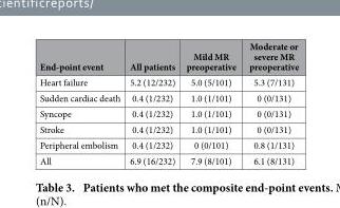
<table><thead><tr><td>End-point event</td><td>All patients</td><td>Mild MR preoperative</td><td>Moderate or severe MR preoperative</td></tr></thead><tbody><tr><td>Heart failure</td><td>5.2 (12/232)</td><td>5.0 (5/101)</td><td>5.3 (7/131)</td></tr><tr><td>Sudden cardiac death</td><td>0.4 (1/232)</td><td>1.0 (1/101)</td><td>0 (0/131)</td></tr><tr><td>Syncope</td><td>0.4 (1/232)</td><td>1.0 (1/101)</td><td>0 (0/131)</td></tr><tr><td>Stroke</td><td>0.4 (1/232)</td><td>1.0 (1/101)</td><td>0 (0/131)</td></tr><tr><td>Peripheral embolism</td><td>0.4 (1/232)</td><td>0 (0/101)</td><td>0.8 (1/131)</td></tr><tr><td>All</td><td>6.9 (16/232)</td><td>7.9 (8/101)</td><td>6.1 (8/131)</td></tr></tbody></table>